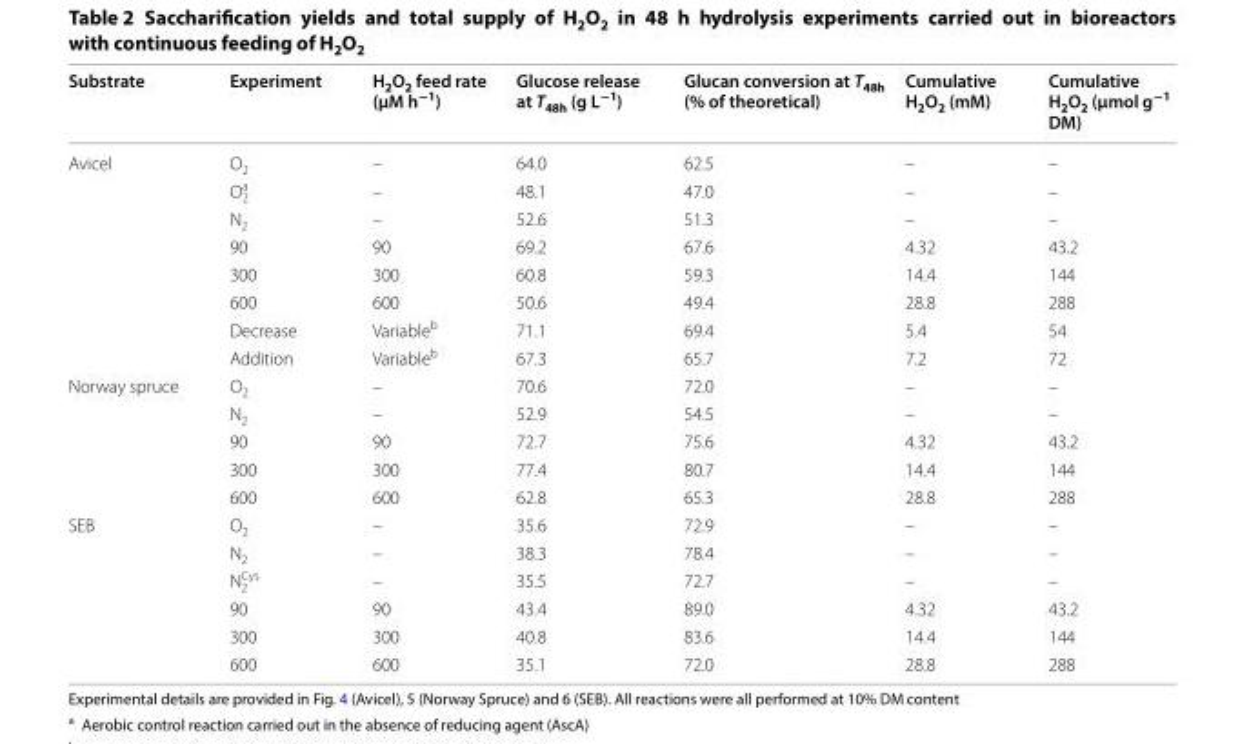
<table><thead><tr><td>Substrate</td><td>Experiment</td><td>H<sub>2</sub>O<sub>2</sub> feed rate (µM h<sup>−1</sup>)</td><td>Glucose release at T<sub>48h</sub> (g L<sup>−1</sup>)</td><td>Glucan conversion at T<sub>48h</sub> (% of theoretical)</td><td>Cumulative H<sub>2</sub>O<sub>2</sub> (mM)</td><td>Cumulative H<sub>2</sub>O<sub>2</sub> (µmol g<sup>−1</sup> DM)</td></tr></thead><tbody><tr><td rowspan="8">Avicel</td><td>O<sub>2</sub></td><td>–</td><td>64.0</td><td>62.5</td><td>–</td><td>–</td></tr><tr><td>O<sub>2</sub> <sup>a</sup></td><td>–</td><td>48.1</td><td>47.0</td><td>–</td><td>–</td></tr><tr><td>N<sub>2</sub></td><td>–</td><td>52.6</td><td>51.3</td><td>–</td><td>–</td></tr><tr><td>90</td><td>90</td><td>69.2</td><td>67.6</td><td>4.32</td><td>43.2</td></tr><tr><td>300</td><td>300</td><td>60.8</td><td>59.3</td><td>14.4</td><td>144</td></tr><tr><td>600</td><td>600</td><td>50.6</td><td>49.4</td><td>28.8</td><td>288</td></tr><tr><td>Decrease</td><td>Variable<sup>b</sup></td><td>71.1</td><td>69.4</td><td>5.4</td><td>54</td></tr><tr><td>Addition</td><td>Variable<sup>b</sup></td><td>67.3</td><td>65.7</td><td>7.2</td><td>72</td></tr><tr><td rowspan="5">Norway spruce</td><td>O<sub>2</sub></td><td>–</td><td>70.6</td><td>72.0</td><td>–</td><td>–</td></tr><tr><td>N<sub>2</sub></td><td>–</td><td>52.9</td><td>54.5</td><td>–</td><td>–</td></tr><tr><td>90</td><td>90</td><td>72.7</td><td>75.6</td><td>4.32</td><td>43.2</td></tr><tr><td>300</td><td>300</td><td>77.4</td><td>80.7</td><td>14.4</td><td>144</td></tr><tr><td>600</td><td>600</td><td>62.8</td><td>65.3</td><td>28.8</td><td>288</td></tr><tr><td rowspan="6">SEB</td><td>O<sub>2</sub></td><td>–</td><td>35.6</td><td>72.9</td><td>–</td><td>–</td></tr><tr><td>N<sub>2</sub></td><td>–</td><td>38.3</td><td>78.4</td><td>–</td><td>–</td></tr><tr><td>N<sub>2</sub> <sup>Cys</sup></td><td>–</td><td>35.5</td><td>72.7</td><td>–</td><td>–</td></tr><tr><td>90</td><td>90</td><td>43.4</td><td>89.0</td><td>4.32</td><td>43.2</td></tr><tr><td>300</td><td>300</td><td>40.8</td><td>83.6</td><td>14.4</td><td>144</td></tr><tr><td>600</td><td>600</td><td>35.1</td><td>72.0</td><td>28.8</td><td>288</td></tr></tbody></table>